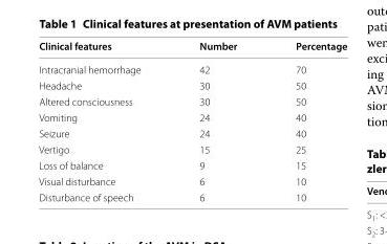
<table><thead><tr><td>Clinical features</td><td>Number</td><td>Percentage</td></tr></thead><tbody><tr><td>Intracranial hemorrhage</td><td>42</td><td>70</td></tr><tr><td>Headache</td><td>30</td><td>50</td></tr><tr><td>Altered consciousness</td><td>30</td><td>50</td></tr><tr><td>Vomiting</td><td>24</td><td>40</td></tr><tr><td>Seizure</td><td>24</td><td>40</td></tr><tr><td>Vertigo</td><td>15</td><td>25</td></tr><tr><td>Loss of balance</td><td>9</td><td>15</td></tr><tr><td>Visual disturbance</td><td>6</td><td>10</td></tr><tr><td>Disturbance of speech</td><td>6</td><td>10</td></tr></tbody></table>